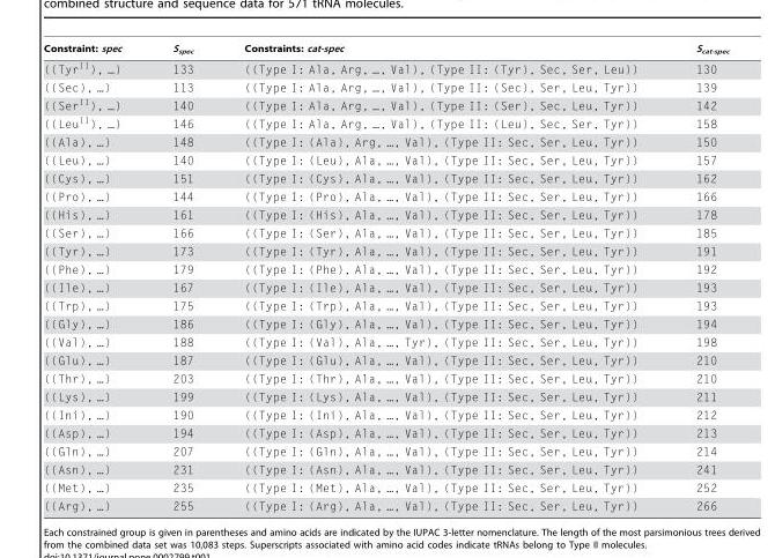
<table><thead><tr><td>Constraint: spec</td><td>S<sub>spec</sub></td><td>Constraints: cat-spec</td><td>S<sub>cat-spec</sub></td></tr></thead><tbody><tr><td>((Tyr<sup>II</sup>), …)</td><td>133</td><td>((Type I: Ala, Arg, …, Val), (Type II: (Tyr), Sec, Ser, Leu))</td><td>130</td></tr><tr><td>((Sec), …)</td><td>113</td><td>((Type I: Ala, Arg, …, Val), (Type II: (Sec), Ser, Leu, Tyr))</td><td>139</td></tr><tr><td>((Ser<sup>II</sup>), …)</td><td>140</td><td>((Type I: Ala, Arg, …, Val), (Type II: (Ser), Sec, Leu, Tyr))</td><td>142</td></tr><tr><td>((Leu<sup>II</sup>), …)</td><td>146</td><td>((Type I: Ala, Arg, …, Val), (Type II: (Leu), Sec, Ser, Tyr))</td><td>158</td></tr><tr><td>((Ala), …)</td><td>148</td><td>((Type I: (Ala), Arg, …, Val), (Type II: Sec, Ser, Leu, Tyr))</td><td>150</td></tr><tr><td>((Leu), …)</td><td>140</td><td>((Type I: (Leu), Ala, …, Val), (Type II: Sec, Ser, Leu, Tyr))</td><td>157</td></tr><tr><td>((Cys), …)</td><td>151</td><td>((Type I: (Cys), Ala, …, Val), (Type II: Sec, Ser, Leu, Tyr))</td><td>162</td></tr><tr><td>((Pro), …)</td><td>144</td><td>((Type I: (Pro), Ala, …, Val), (Type II: Sec, Ser, Leu, Tyr))</td><td>166</td></tr><tr><td>((His), …)</td><td>161</td><td>((Type I: (His), Ala, …, Val), (Type II: Sec, Ser, Leu, Tyr))</td><td>178</td></tr><tr><td>((Ser), …)</td><td>166</td><td>((Type I: (Ser), Ala, …, Val), (Type II: Sec, Ser, Leu, Tyr))</td><td>185</td></tr><tr><td>((Tyr), …)</td><td>173</td><td>((Type I: (Tyr), Ala, …, Val), (Type II: Sec, Ser, Leu, Tyr))</td><td>191</td></tr><tr><td>((Phe), …)</td><td>179</td><td>((Type I: (Phe), Ala, …, Val), (Type II: Sec, Ser, Leu, Tyr))</td><td>192</td></tr><tr><td>((Ile), …)</td><td>167</td><td>((Type I: (Ile), Ala, …, Val), (Type II: Sec, Ser, Leu, Tyr))</td><td>193</td></tr><tr><td>((Trp), …)</td><td>175</td><td>((Type I: (Trp), Ala, …, Val), (Type II: Sec, Ser, Leu, Tyr))</td><td>193</td></tr><tr><td>((Gly), …)</td><td>186</td><td>((Type I: (Gly), Ala, …, Val), (Type II: Sec, Ser, Leu, Tyr))</td><td>194</td></tr><tr><td>((Val), …)</td><td>188</td><td>((Type I: (Val), Ala, …, Tyr), (Type II: Sec, Ser, Leu, Tyr))</td><td>198</td></tr><tr><td>((Glu), …)</td><td>187</td><td>((Type I: (Glu), Ala, …, Val), (Type II: Sec, Ser, Leu, Tyr))</td><td>210</td></tr><tr><td>((Thr), …)</td><td>203</td><td>((Type I: (Thr), Ala, …, Val), (Type II: Sec, Ser, Leu, Tyr))</td><td>210</td></tr><tr><td>((Lys), …)</td><td>199</td><td>((Type I: (Lys), Ala, …, Val), (Type II: Sec, Ser, Leu, Tyr))</td><td>211</td></tr><tr><td>((Ini), …)</td><td>190</td><td>((Type I: (Ini), Ala, …, Val), (Type II: Sec, Ser, Leu, Tyr))</td><td>212</td></tr><tr><td>((Asp), …)</td><td>194</td><td>((Type I: (Asp), Ala, …, Val), (Type II: Sec, Ser, Leu, Tyr))</td><td>213</td></tr><tr><td>((Gln), …)</td><td>207</td><td>((Type I: (Gln), Ala, …, Val), (Type II: Sec, Ser, Leu, Tyr))</td><td>214</td></tr><tr><td>((Asn), …)</td><td>231</td><td>((Type I: (Asn), Ala, …, Val), (Type II: Sec, Ser, Leu, Tyr))</td><td>241</td></tr><tr><td>((Met), …)</td><td>235</td><td>((Type I: (Met), Ala, …, Val), (Type II: Sec, Ser, Leu, Tyr))</td><td>252</td></tr><tr><td>((Arg), …)</td><td>255</td><td>((Type I: (Arg), Ala, …, Val), (Type II: Sec, Ser, Leu, Tyr))</td><td>266</td></tr></tbody></table>